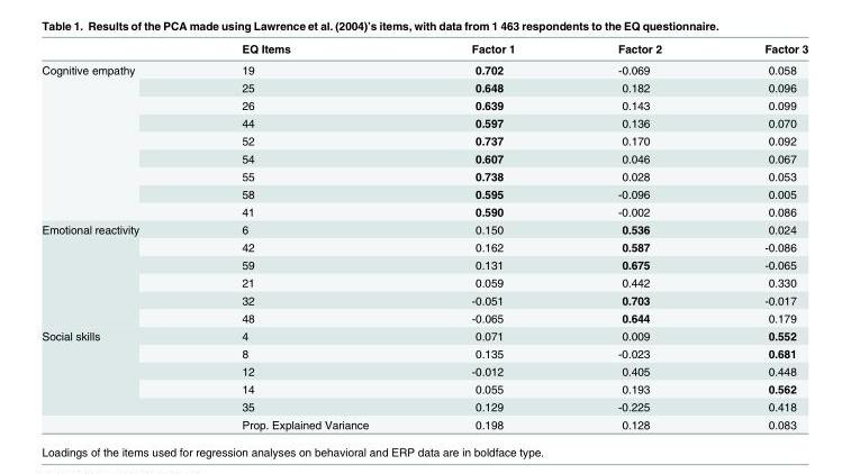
<table><thead><tr><td></td><td>EQ Items</td><td>Factor 1</td><td>Factor 2</td><td>Factor 3</td></tr></thead><tbody><tr><td rowspan="9">Cognitive empathy</td><td>19</td><td>0.702</td><td>-0.069</td><td>0.058</td></tr><tr><td>25</td><td>0.648</td><td>0.182</td><td>0.096</td></tr><tr><td>26</td><td>0.639</td><td>0.143</td><td>0.099</td></tr><tr><td>44</td><td>0.597</td><td>0.136</td><td>0.070</td></tr><tr><td>52</td><td>0.737</td><td>0.170</td><td>0.092</td></tr><tr><td>54</td><td>0.607</td><td>0.046</td><td>0.067</td></tr><tr><td>55</td><td>0.738</td><td>0.028</td><td>0.053</td></tr><tr><td>58</td><td>0.595</td><td>-0.096</td><td>0.005</td></tr><tr><td>41</td><td>0.590</td><td>-0.002</td><td>0.086</td></tr><tr><td rowspan="6">Emotional reactivity</td><td>6</td><td>0.150</td><td>0.536</td><td>0.024</td></tr><tr><td>42</td><td>0.162</td><td>0.587</td><td>-0.086</td></tr><tr><td>59</td><td>0.131</td><td>0.675</td><td>-0.065</td></tr><tr><td>21</td><td>0.059</td><td>0.442</td><td>0.330</td></tr><tr><td>32</td><td>-0.051</td><td>0.703</td><td>-0.017</td></tr><tr><td>48</td><td>-0.065</td><td>0.644</td><td>0.179</td></tr><tr><td rowspan="6">Social skills</td><td>4</td><td>0.071</td><td>0.009</td><td>0.552</td></tr><tr><td>8</td><td>0.135</td><td>-0.023</td><td>0.681</td></tr><tr><td>12</td><td>-0.012</td><td>0.405</td><td>0.448</td></tr><tr><td>14</td><td>0.055</td><td>0.193</td><td>0.562</td></tr><tr><td>35</td><td>0.129</td><td>-0.225</td><td>0.418</td></tr><tr><td>Prop. Explained Variance</td><td>0.198</td><td>0.128</td><td>0.083</td></tr></tbody></table>